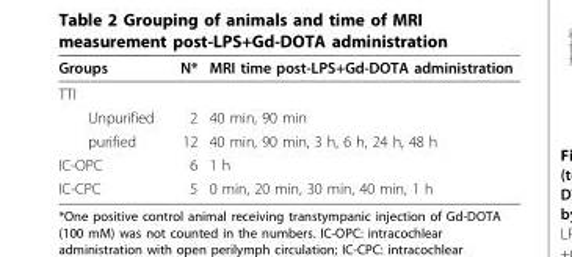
<table><thead><tr><td>Groups</td><td>N*</td><td>MRI time post-LPS+Gd-DOTA administration</td></tr></thead><tbody><tr><td colspan="3">TTI</td></tr><tr><td>Unpurified</td><td>2</td><td>40 min, 90 min</td></tr><tr><td>purified</td><td>12</td><td>40 min, 90 min, 3 h, 6 h, 24 h, 48 h</td></tr><tr><td>IC-OPC</td><td>6</td><td>1 h</td></tr><tr><td>IC-CPC</td><td>5</td><td>0 min, 20 min, 30 min, 40 min, 1 h</td></tr></tbody></table>